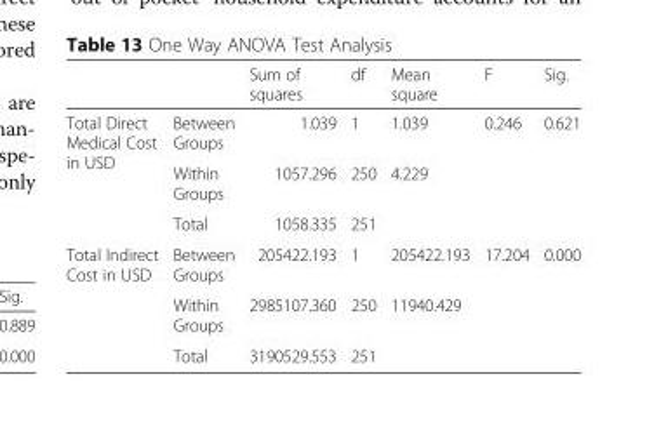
<table><thead><tr><td></td><td></td><td>Sum of squares</td><td>df</td><td>Mean square</td><td>F</td><td>Sig.</td></tr></thead><tbody><tr><td rowspan="3">Total Direct Medical Cost in USD</td><td>Between Groups</td><td>1.039</td><td>1</td><td>1.039</td><td>0.246</td><td>0.621</td></tr><tr><td>Within Groups</td><td>1057.296</td><td>250</td><td>4.229</td><td></td><td></td></tr><tr><td>Total</td><td>1058.335</td><td>251</td><td></td><td></td><td></td></tr><tr><td rowspan="3">Total Indirect Cost in USD</td><td>Between Groups</td><td>205422.193</td><td>1</td><td>205422.193</td><td>17.204</td><td>0.000</td></tr><tr><td>Within Groups</td><td>2985107.360</td><td>250</td><td>11940.429</td><td></td><td></td></tr><tr><td>Total</td><td>3190529.553</td><td>251</td><td></td><td></td><td></td></tr></tbody></table>